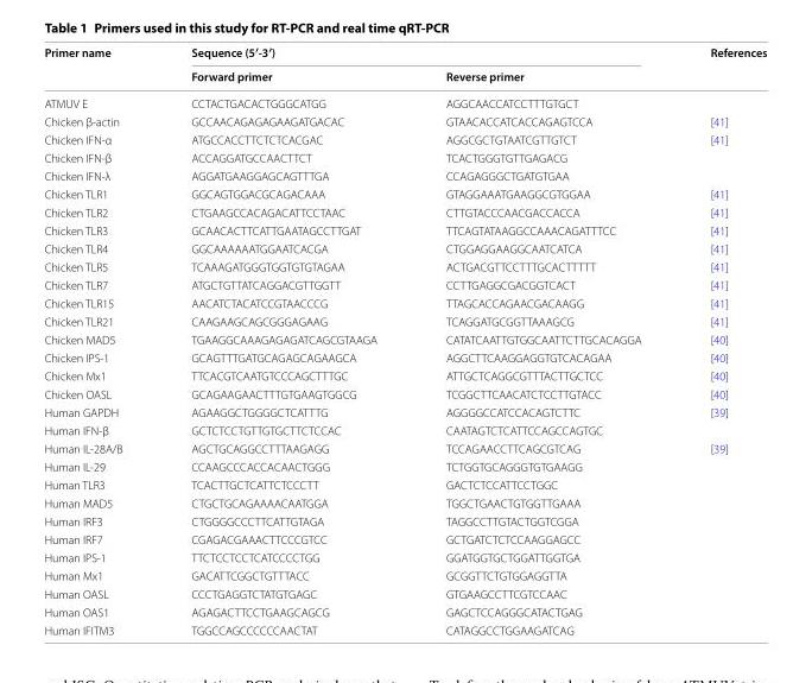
<table><thead><tr><td rowspan="2">Primer name</td><td colspan="2">Sequence (5′‑3′)</td><td rowspan="2">References</td></tr><tr><td>Forward primer</td><td>Reverse primer</td></tr></thead><tbody><tr><td>ATMUV E</td><td>CCTACTGACACTGGGCATGG</td><td>AGGCAACCATCCTTTGTGCT</td><td></td></tr><tr><td>Chicken β‑actin</td><td>GCCAACAGAGAGAAGATGACAC</td><td>GTAACACCATCACCAGAGTCCA</td><td>[41]</td></tr><tr><td>Chicken IFN‑α</td><td>ATGCCACCTTCTCTCACGAC</td><td>AGGCGCTGTAATCGTTGTCT</td><td>[41]</td></tr><tr><td>Chicken IFN‑β</td><td>ACCAGGATGCCAACTTCT</td><td>TCACTGGGTGTTGAGACG</td><td></td></tr><tr><td>Chicken IFN‑λ</td><td>AGGATGAAGGAGCAGTTTGA</td><td>CCAGAGGGCTGATGTGAA</td><td></td></tr><tr><td>Chicken TLR1</td><td>GGCAGTGGACGCAGACAAA</td><td>GTAGGAAATGAAGGCGTGGAA</td><td>[41]</td></tr><tr><td>Chicken TLR2</td><td>CTGAAGCCACAGACATTCCTAAC</td><td>CTTGTACCCAACGACCACCA</td><td>[41]</td></tr><tr><td>Chicken TLR3</td><td>GCAACACTTCATTGAATAGCCTTGAT</td><td>TTCAGTATAAGGCCAAACAGATTTCC</td><td>[41]</td></tr><tr><td>Chicken TLR4</td><td>GGCAAAAAATGGAATCACGA</td><td>CTGGAGGAAGGCAATCATCA</td><td>[41]</td></tr><tr><td>Chicken TLR5</td><td>TCAAAGATGGGTGGTGTGTAGAA</td><td>ACTGACGTTCCTTTGCACTTTTT</td><td>[41]</td></tr><tr><td>Chicken TLR7</td><td>ATGCTGTTATCAGGACGTTGGTT</td><td>CCTTGAGGCGACGGTCACT</td><td>[41]</td></tr><tr><td>Chicken TLR15</td><td>AACATCTACATCCGTAACCCG</td><td>TTAGCACCAGAACGACAAGG</td><td>[41]</td></tr><tr><td>Chicken TLR21</td><td>CAAGAAGCAGCGGGAGAAG</td><td>TCAGGATGCGGTTAAAGCG</td><td>[41]</td></tr><tr><td>Chicken MAD5</td><td>TGAAGGCAAAGAGAGATCAGCGTAAGA</td><td>CATATCAATTGTGGCAATTCTTGCACAGGA</td><td>[40]</td></tr><tr><td>Chicken IPS‑1</td><td>GCAGTTTGATGCAGAGCAGAAGCA</td><td>AGGCTTCAAGGAGGTGTCACAGAA</td><td>[40]</td></tr><tr><td>Chicken Mx1</td><td>TTCACGTCAATGTCCCAGCTTTGC</td><td>ATTGCTCAGGCGTTTACTTGCTCC</td><td>[40]</td></tr><tr><td>Chicken OASL</td><td>GCAGAAGAACTTTGTGAAGTGGCG</td><td>TCGGCTTCAACATCTCCTTGTACC</td><td>[40]</td></tr><tr><td>Human GAPDH</td><td>AGAAGGCTGGGGCTCATTTG</td><td>AGGGGCCATCCACAGTCTTC</td><td>[39]</td></tr><tr><td>Human IFN‑β</td><td>GCTCTCCTGTTGTGCTTCTCCAC</td><td>CAATAGTCTCATTCCAGCCAGTGC</td><td></td></tr><tr><td>Human IL‑28A/B</td><td>AGCTGCAGGCCTTTAAGAGG</td><td>TCCAGAACCTTCAGCGTCAG</td><td>[39]</td></tr><tr><td>Human IL‑29</td><td>CCAAGCCCACCACAACTGGG</td><td>TCTGGTGCAGGGTGTGAAGG</td><td></td></tr><tr><td>Human TLR3</td><td>TCACTTGCTCATTCTCCCTT</td><td>GACTCTCCATTCCTGGC</td><td></td></tr><tr><td>Human MAD5</td><td>CTGCTGCAGAAAACAATGGA</td><td>TGGCTGAACTGTGGTTGAAA</td><td></td></tr><tr><td>Human IRF3</td><td>CTGGGGCCCTTCATTGTAGA</td><td>TAGGCCTTGTACTGGTCGGA</td><td></td></tr><tr><td>Human IRF7</td><td>CGAGACGAAACTTCCCGTCC</td><td>GCTGATCTCTCCAAGGAGCC</td><td></td></tr><tr><td>Human IPS‑1</td><td>TTCTCCTCCTCATCCCCTGG</td><td>GGATGGTGCTGGATTGGTGA</td><td></td></tr><tr><td>Human Mx1</td><td>GACATTCGGCTGTTTACC</td><td>GCGGTTCTGTGGAGGTTA</td><td></td></tr><tr><td>Human OASL</td><td>CCCTGAGGTCTATGTGAGC</td><td>GTGAAGCCTTCGTCCAAC</td><td></td></tr><tr><td>Human OAS1</td><td>AGAGACTTCCTGAAGCAGCG</td><td>GAGCTCCAGGGCATACTGAG</td><td></td></tr><tr><td>Human IFITM3</td><td>TGGCCAGCCCCCCAACTAT</td><td>CATAGGCCTGGAAGATCAG</td><td></td></tr></tbody></table>